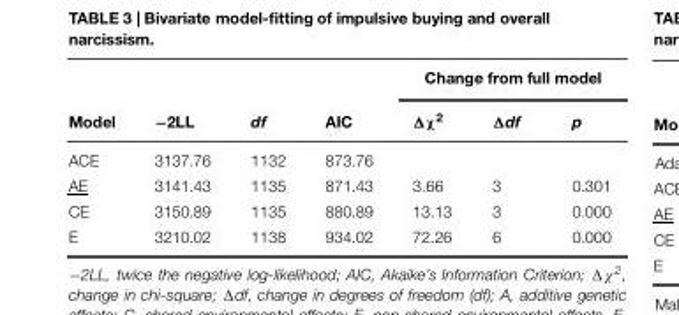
<table><thead><tr><td rowspan="2">Model</td><td rowspan="2">−2LL</td><td rowspan="2">df</td><td rowspan="2">AIC</td><td colspan="3">Change from full model</td></tr><tr><td>Δχ<sup>2</sup></td><td>Δdf</td><td>p</td></tr></thead><tbody><tr><td>ACE</td><td>3137.76</td><td>1132</td><td>873.76</td><td></td><td></td><td></td></tr><tr><td>AE</td><td>3141.43</td><td>1135</td><td>871.43</td><td>3.66</td><td>3</td><td>0.301</td></tr><tr><td>CE</td><td>3150.89</td><td>1135</td><td>880.89</td><td>13.13</td><td>3</td><td>0.000</td></tr><tr><td>E</td><td>3210.02</td><td>1138</td><td>934.02</td><td>72.26</td><td>6</td><td>0.000</td></tr></tbody></table>